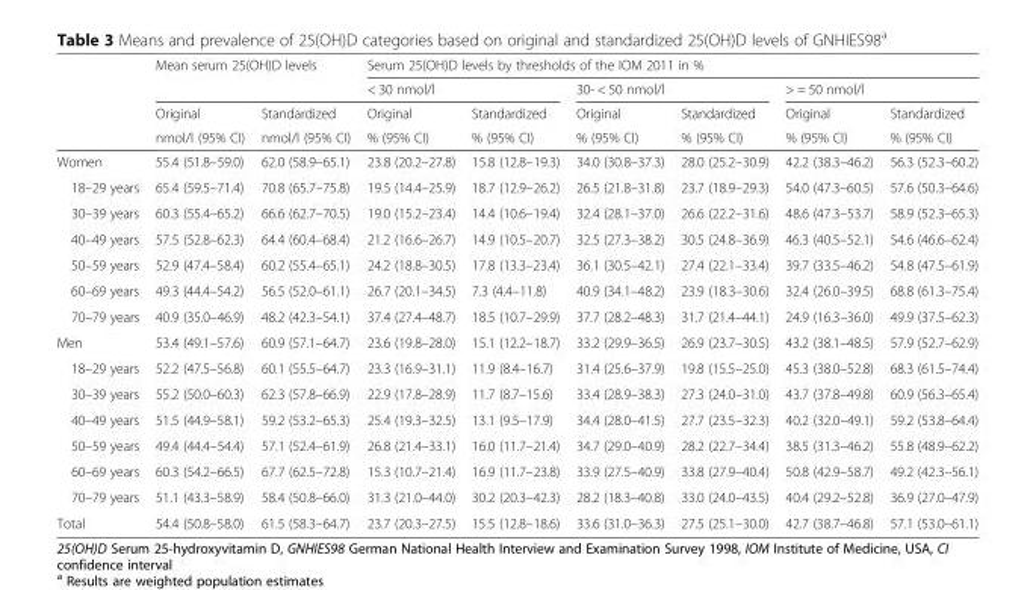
<table><thead><tr><td rowspan="4"></td><td rowspan="2" colspan="2">Mean serum 25(OH)D levels</td><td colspan="6">Serum 25(OH)D levels by thresholds of the IOM 2011 in %</td></tr><tr><td colspan="2">&lt; 30 nmol/l</td><td colspan="2">30- &lt; 50 nmol/l</td><td colspan="2">&gt; = 50 nmol/l</td></tr><tr><td rowspan="2">Original nmol/l (95% CI)</td><td rowspan="2">Standardized nmol/l (95% CI)</td><td rowspan="2">Original % (95% CI)</td><td rowspan="2">Standardized % (95% CI)</td><td rowspan="2">Original % (95% CI)</td><td rowspan="2">Standardized % (95% CI)</td><td rowspan="2">Original % (95% CI)</td><td rowspan="2">Standardized % (95% CI)</td></tr><tr></tr></thead><tbody><tr><td>Women</td><td>55.4 (51.8–59.0)</td><td>62.0 (58.9–65.1)</td><td>23.8 (20.2–27.8)</td><td>15.8 (12.8–19.3)</td><td>34.0 (30.8–37.3)</td><td>28.0 (25.2–30.9)</td><td>42.2 (38.3–46.2)</td><td>56.3 (52.3–60.2)</td></tr><tr><td>18–29 years</td><td>65.4 (59.5–71.4)</td><td>70.8 (65.7–75.8)</td><td>19.5 (14.4–25.9)</td><td>18.7 (12.9–26.2)</td><td>26.5 (21.8–31.8)</td><td>23.7 (18.9–29.3)</td><td>54.0 (47.3–60.5)</td><td>57.6 (50.3–64.6)</td></tr><tr><td>30–39 years</td><td>60.3 (55.4–65.2)</td><td>66.6 (62.7–70.5)</td><td>19.0 (15.2–23.4)</td><td>14.4 (10.6–19.4)</td><td>32.4 (28.1–37.0)</td><td>26.6 (22.2–31.6)</td><td>48.6 (47.3–53.7)</td><td>58.9 (52.3–65.3)</td></tr><tr><td>40–49 years</td><td>57.5 (52.8–62.3)</td><td>64.4 (60.4–68.4)</td><td>21.2 (16.6–26.7)</td><td>14.9 (10.5–20.7)</td><td>32.5 (27.3–38.2)</td><td>30.5 (24.8–36.9)</td><td>46.3 (40.5–52.1)</td><td>54.6 (46.6–62.4)</td></tr><tr><td>50–59 years</td><td>52.9 (47.4–58.4)</td><td>60.2 (55.4–65.1)</td><td>24.2 (18.8–30.5)</td><td>17.8 (13.3–23.4)</td><td>36.1 (30.5–42.1)</td><td>27.4 (22.1–33.4)</td><td>39.7 (33.5–46.2)</td><td>54.8 (47.5–61.9)</td></tr><tr><td>60–69 years</td><td>49.3 (44.4–54.2)</td><td>56.5 (52.0–61.1)</td><td>26.7 (20.1–34.5)</td><td>7.3 (4.4–11.8)</td><td>40.9 (34.1–48.2)</td><td>23.9 (18.3–30.6)</td><td>32.4 (26.0–39.5)</td><td>68.8 (61.3–75.4)</td></tr><tr><td>70–79 years</td><td>40.9 (35.0–46.9)</td><td>48.2 (42.3–54.1)</td><td>37.4 (27.4–48.7)</td><td>18.5 (10.7–29.9)</td><td>37.7 (28.2–48.3)</td><td>31.7 (21.4–44.1)</td><td>24.9 (16.3–36.0)</td><td>49.9 (37.5–62.3)</td></tr><tr><td>Men</td><td>53.4 (49.1–57.6)</td><td>60.9 (57.1–64.7)</td><td>23.6 (19.8–28.0)</td><td>15.1 (12.2–18.7)</td><td>33.2 (29.9–36.5)</td><td>26.9 (23.7–30.5)</td><td>43.2 (38.1–48.5)</td><td>57.9 (52.7–62.9)</td></tr><tr><td>18–29 years</td><td>52.2 (47.5–56.8)</td><td>60.1 (55.5–64.7)</td><td>23.3 (16.9–31.1)</td><td>11.9 (8.4–16.7)</td><td>31.4 (25.6–37.9)</td><td>19.8 (15.5–25.0)</td><td>45.3 (38.0–52.8)</td><td>68.3 (61.5–74.4)</td></tr><tr><td>30–39 years</td><td>55.2 (50.0–60.3)</td><td>62.3 (57.8–66.9)</td><td>22.9 (17.8–28.9)</td><td>11.7 (8.7–15.6)</td><td>33.4 (28.9–38.3)</td><td>27.3 (24.0–31.0)</td><td>43.7 (37.8–49.8)</td><td>60.9 (56.3–65.4)</td></tr><tr><td>40–49 years</td><td>51.5 (44.9–58.1)</td><td>59.2 (53.2–65.3)</td><td>25.4 (19.3–32.5)</td><td>13.1 (9.5–17.9)</td><td>34.4 (28.0–41.5)</td><td>27.7 (23.5–32.3)</td><td>40.2 (32.0–49.1)</td><td>59.2 (53.8–64.4)</td></tr><tr><td>50–59 years</td><td>49.4 (44.4–54.4)</td><td>57.1 (52.4–61.9)</td><td>26.8 (21.4–33.1)</td><td>16.0 (11.7–21.4)</td><td>34.7 (29.0–40.9)</td><td>28.2 (22.7–34.4)</td><td>38.5 (31.3–46.2)</td><td>55.8 (48.9–62.2)</td></tr><tr><td>60–69 years</td><td>60.3 (54.2–66.5)</td><td>67.7 (62.5–72.8)</td><td>15.3 (10.7–21.4)</td><td>16.9 (11.7–23.8)</td><td>33.9 (27.5–40.9)</td><td>33.8 (27.9–40.4)</td><td>50.8 (42.9–58.7)</td><td>49.2 (42.3–56.1)</td></tr><tr><td>70–79 years</td><td>51.1 (43.3–58.9)</td><td>58.4 (50.8–66.0)</td><td>31.3 (21.0–44.0)</td><td>30.2 (20.3–42.3)</td><td>28.2 (18.3–40.8)</td><td>33.0 (24.0–43.5)</td><td>40.4 (29.2–52.8)</td><td>36.9 (27.0–47.9)</td></tr><tr><td>Total</td><td>54.4 (50.8–58.0)</td><td>61.5 (58.3–64.7)</td><td>23.7 (20.3–27.5)</td><td>15.5 (12.8–18.6)</td><td>33.6 (31.0–36.3)</td><td>27.5 (25.1–30.0)</td><td>42.7 (38.7–46.8)</td><td>57.1 (53.0–61.1)</td></tr></tbody></table>